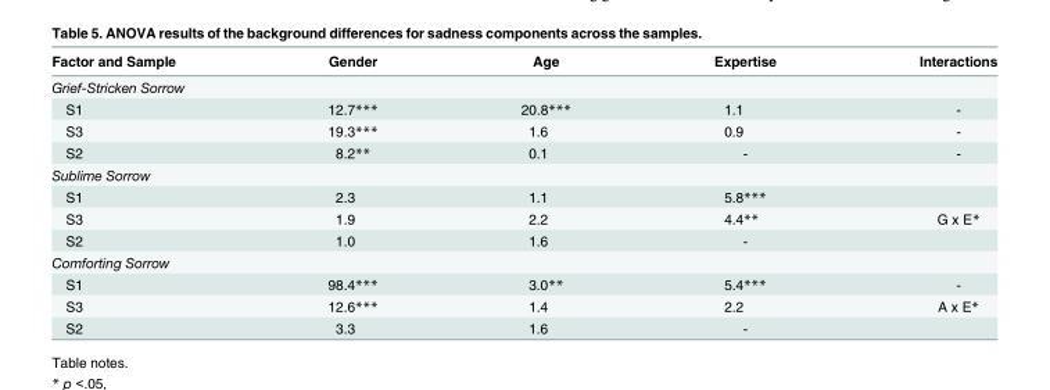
<table><thead><tr><td>Factor and Sample</td><td>Gender</td><td>Age</td><td>Expertise</td><td>Interactions</td></tr></thead><tbody><tr><td colspan="5">Grief-Stricken Sorrow</td></tr><tr><td>S1</td><td>12.7***</td><td>20.8***</td><td>1.1</td><td>-</td></tr><tr><td>S3</td><td>19.3***</td><td>1.6</td><td>0.9</td><td>-</td></tr><tr><td>S2</td><td>8.2**</td><td>0.1</td><td>-</td><td>-</td></tr><tr><td colspan="5">Sublime Sorrow</td></tr><tr><td>S1</td><td>2.3</td><td>1.1</td><td>5.8***</td><td></td></tr><tr><td>S3</td><td>1.9</td><td>2.2</td><td>4.4**</td><td>G x E*</td></tr><tr><td>S2</td><td>1.0</td><td>1.6</td><td>-</td><td></td></tr><tr><td colspan="5">Comforting Sorrow</td></tr><tr><td>S1</td><td>98.4***</td><td>3.0**</td><td>5.4***</td><td>-</td></tr><tr><td>S3</td><td>12.6***</td><td>1.4</td><td>2.2</td><td>A x E*</td></tr><tr><td>S2</td><td>3.3</td><td>1.6</td><td>-</td><td></td></tr></tbody></table>